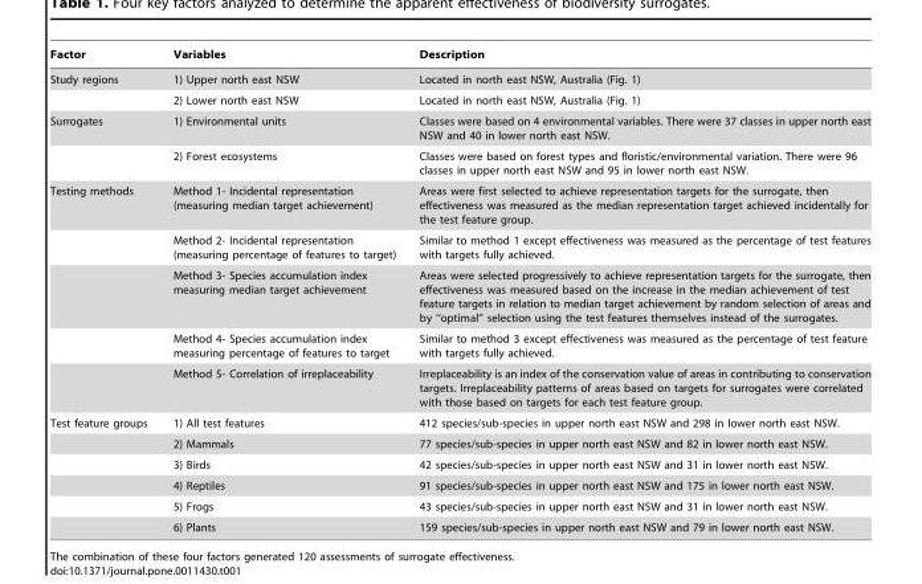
<table><thead><tr><td>Factor</td><td>Variables</td><td>Description</td></tr></thead><tbody><tr><td rowspan="2">Study regions</td><td>1) Upper north east NSW</td><td>Located in north east NSW, Australia (Fig. 1)</td></tr><tr><td>2) Lower north east NSW</td><td>Located in north east NSW, Australia (Fig. 1)</td></tr><tr><td rowspan="2">Surrogates</td><td>1) Environmental units</td><td>Classes were based on 4 environmental variables. There were 37 classes in upper north east NSW and 40 in lower north east NSW.</td></tr><tr><td>2) Forest ecosystems</td><td>Classes were based on forest types and floristic/environmental variation. There were 96 classes in upper north east NSW and 95 in lower north east NSW.</td></tr><tr><td rowspan="5">Testing methods</td><td>Method 1- Incidental representation (measuring median target achievement)</td><td>Areas were first selected to achieve representation targets for the surrogate, then effectiveness was measured as the median representation target achieved incidentally for the test feature group.</td></tr><tr><td>Method 2- Incidental representation (measuring percentage of features to target)</td><td>Similar to method 1 except effectiveness was measured as the percentage of test features with targets fully achieved.</td></tr><tr><td>Method 3- Species accumulation index measuring median target achievement</td><td>Areas were selected progressively to achieve representation targets for the surrogate, then effectiveness was measured based on the increase in the median achievement of test feature targets in relation to median target achievement by random selection of areas and by ‘‘optimal’’ selection using the test features themselves instead of the surrogates.</td></tr><tr><td>Method 4- Species accumulation index measuring percentage of features to target</td><td>Similar to method 3 except effectiveness was measured as the percentage of test feature with targets fully achieved.</td></tr><tr><td>Method 5- Correlation of irreplaceability</td><td>Irreplaceability is an index of the conservation value of areas in contributing to conservation targets. Irreplaceability patterns of areas based on targets for surrogates were correlated with those based on targets for each test feature group.</td></tr><tr><td rowspan="6">Test feature groups</td><td>1) All test features</td><td>412 species/sub-species in upper north east NSW and 298 in lower north east NSW.</td></tr><tr><td>2) Mammals</td><td>77 species/sub-species in upper north east NSW and 82 in lower north east NSW.</td></tr><tr><td>3) Birds</td><td>42 species/sub-species in upper north east NSW and 31 in lower north east NSW.</td></tr><tr><td>4) Reptiles</td><td>91 species/sub-species in upper north east NSW and 175 in lower north east NSW.</td></tr><tr><td>5) Frogs</td><td>43 species/sub-species in upper north east NSW and 31 in lower north east NSW.</td></tr><tr><td>6) Plants</td><td>159 species/sub-species in upper north east NSW and 79 in lower north east NSW.</td></tr></tbody></table>